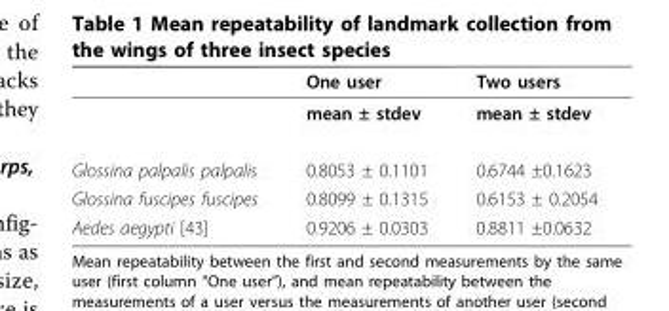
<table><thead><tr><td></td><td>One user</td><td>Two users</td></tr></thead><tbody><tr><td></td><td>mean ± stdev</td><td>mean ± stdev</td></tr><tr><td>Glossina palpalis palpalis</td><td>0.8053 ± 0.1101</td><td>0.6744 ±0.1623</td></tr><tr><td>Glossina fuscipes fuscipes</td><td>0.8099 ± 0.1315</td><td>0.6153 ± 0.2054</td></tr><tr><td>Aedes aegypti [43]</td><td>0.9206 ± 0.0303</td><td>0.8811 ±0.0632</td></tr></tbody></table>